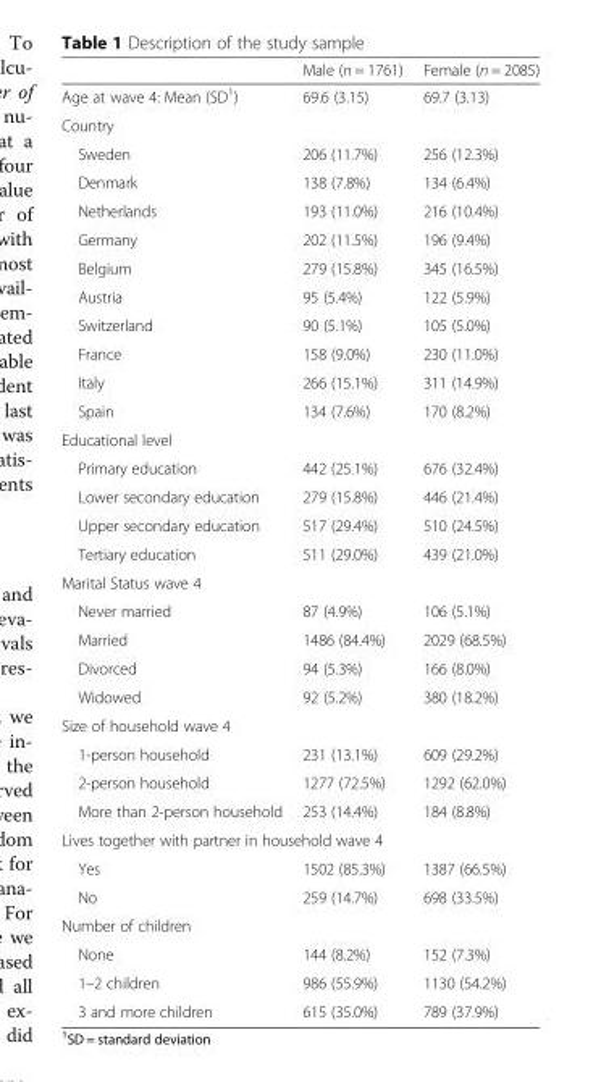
<table><thead><tr><td></td><td>Male (n = 1761)</td><td>Female (n = 2085)</td></tr></thead><tbody><tr><td>Age at wave 4: Mean (SD<sup>1</sup>)</td><td>69.6 (3.15)</td><td>69.7 (3.13)</td></tr><tr><td colspan="3">Country</td></tr><tr><td>Sweden</td><td>206 (11.7%)</td><td>256 (12.3%)</td></tr><tr><td>Denmark</td><td>138 (7.8%)</td><td>134 (6.4%)</td></tr><tr><td>Netherlands</td><td>193 (11.0%)</td><td>216 (10.4%)</td></tr><tr><td>Germany</td><td>202 (11.5%)</td><td>196 (9.4%)</td></tr><tr><td>Belgium</td><td>279 (15.8%)</td><td>345 (16.5%)</td></tr><tr><td>Austria</td><td>95 (5.4%)</td><td>122 (5.9%)</td></tr><tr><td>Switzerland</td><td>90 (5.1%)</td><td>105 (5.0%)</td></tr><tr><td>France</td><td>158 (9.0%)</td><td>230 (11.0%)</td></tr><tr><td>Italy</td><td>266 (15.1%)</td><td>311 (14.9%)</td></tr><tr><td>Spain</td><td>134 (7.6%)</td><td>170 (8.2%)</td></tr><tr><td colspan="3">Educational level</td></tr><tr><td>Primary education</td><td>442 (25.1%)</td><td>676 (32.4%)</td></tr><tr><td>Lower secondary education</td><td>279 (15.8%)</td><td>446 (21.4%)</td></tr><tr><td>Upper secondary education</td><td>517 (29.4%)</td><td>510 (24.5%)</td></tr><tr><td>Tertiary education</td><td>511 (29.0%)</td><td>439 (21.0%)</td></tr><tr><td colspan="3">Marital Status wave 4</td></tr><tr><td>Never married</td><td>87 (4.9%)</td><td>106 (5.1%)</td></tr><tr><td>Married</td><td>1486 (84.4%)</td><td>2029 (68.5%)</td></tr><tr><td>Divorced</td><td>94 (5.3%)</td><td>166 (8.0%)</td></tr><tr><td>Widowed</td><td>92 (5.2%)</td><td>380 (18.2%)</td></tr><tr><td colspan="3">Size of household wave 4</td></tr><tr><td>1-person household</td><td>231 (13.1%)</td><td>609 (29.2%)</td></tr><tr><td>2-person household</td><td>1277 (72.5%)</td><td>1292 (62.0%)</td></tr><tr><td>More than 2-person household</td><td>253 (14.4%)</td><td>184 (8.8%)</td></tr><tr><td colspan="3">Lives together with partner in household wave 4</td></tr><tr><td>Yes</td><td>1502 (85.3%)</td><td>1387 (66.5%)</td></tr><tr><td>No</td><td>259 (14.7%)</td><td>698 (33.5%)</td></tr><tr><td colspan="3">Number of children</td></tr><tr><td>None</td><td>144 (8.2%)</td><td>152 (7.3%)</td></tr><tr><td>1–2 children</td><td>986 (55.9%)</td><td>1130 (54.2%)</td></tr><tr><td>3 and more children</td><td>615 (35.0%)</td><td>789 (37.9%)</td></tr></tbody></table>